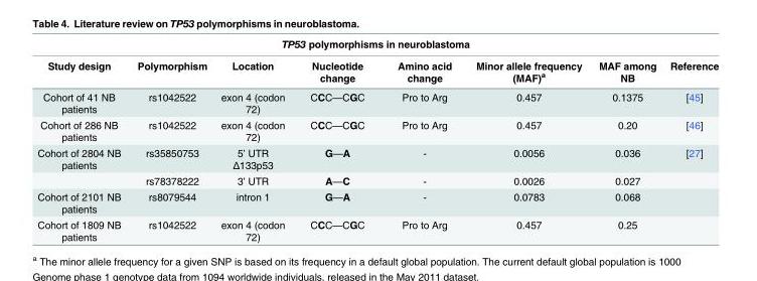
<table><thead><tr><td colspan="8">TP53 polymorphisms in neuroblastoma</td></tr><tr><td>Study design</td><td>Polymorphism</td><td>Location</td><td>Nucleotide change</td><td>Amino acid change</td><td>Minor allele frequency (MAF)<sup>a</sup></td><td>MAF among NB</td><td>Reference</td></tr></thead><tbody><tr><td>Cohort of 41 NB patients</td><td>rs1042522</td><td>exon 4 (codon 72)</td><td>CCC—CGC</td><td>Pro to Arg</td><td>0.457</td><td>0.1375</td><td>[45]</td></tr><tr><td>Cohort of 286 NB patients</td><td>rs1042522</td><td>exon 4 (codon 72)</td><td>CCC—CGC</td><td>Pro to Arg</td><td>0.457</td><td>0.20</td><td>[46]</td></tr><tr><td rowspan="2">Cohort of 2804 NB patients</td><td>rs35850753</td><td>5’ UTR Δ133p53</td><td>G—A</td><td>-</td><td>0.0056</td><td>0.036</td><td>[27]</td></tr><tr><td>rs78378222</td><td>3’ UTR</td><td>A—C</td><td>-</td><td>0.0026</td><td>0.027</td><td></td></tr><tr><td>Cohort of 2101 NB patients</td><td>rs8079544</td><td>intron 1</td><td>G—A</td><td>-</td><td>0.0783</td><td>0.068</td><td></td></tr><tr><td>Cohort of 1809 NB patients</td><td>rs1042522</td><td>exon 4 (codon 72)</td><td>CCC—CGC</td><td>Pro to Arg</td><td>0.457</td><td>0.25</td><td></td></tr></tbody></table>